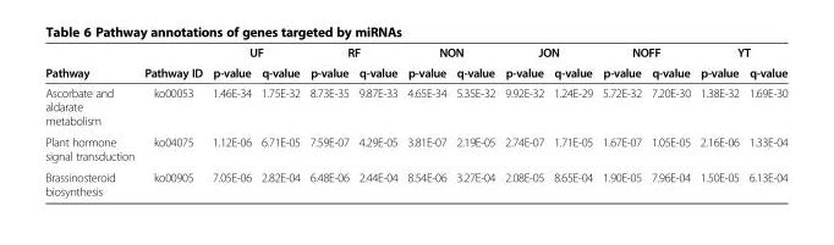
<table><thead><tr><td rowspan="2">Pathway</td><td rowspan="2">Pathway ID</td><td colspan="2">UF</td><td colspan="2">RF</td><td colspan="2">NON</td><td colspan="2">JON</td><td colspan="2">NOFF</td><td colspan="2">YT</td></tr><tr><td>p-value</td><td>q-value</td><td>p-value</td><td>q-value</td><td>p-value</td><td>q-value</td><td>p-value</td><td>q-value</td><td>p-value</td><td>q-value</td><td>p-value</td><td>q-value</td></tr></thead><tbody><tr><td>Ascorbate and aldarate metabolism</td><td>ko00053</td><td>1.46E-34</td><td>1.75E-32</td><td>8.73E-35</td><td>9.87E-33</td><td>4.65E-34</td><td>5.35E-32</td><td>9.92E-32</td><td>1.24E-29</td><td>5.72E-32</td><td>7.20E-30</td><td>1.38E-32</td><td>1.69E-30</td></tr><tr><td>Plant hormone signal transduction</td><td>ko04075</td><td>1.12E-06</td><td>6.71E-05</td><td>7.59E-07</td><td>4.29E-05</td><td>3.81E-07</td><td>2.19E-05</td><td>2.74E-07</td><td>1.71E-05</td><td>1.67E-07</td><td>1.05E-05</td><td>2.16E-06</td><td>1.33E-04</td></tr><tr><td>Brassinosteroid biosynthesis</td><td>ko00905</td><td>7.05E-06</td><td>2.82E-04</td><td>6.48E-06</td><td>2.44E-04</td><td>8.54E-06</td><td>3.27E-04</td><td>2.08E-05</td><td>8.65E-04</td><td>1.90E-05</td><td>7.96E-04</td><td>1.50E-05</td><td>6.13E-04</td></tr></tbody></table>